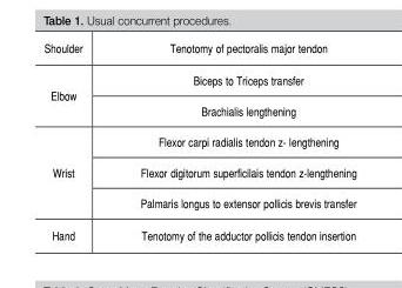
<table><thead><tr><td>Shoulder</td><td>Tenotomy of pectoralis major tendon</td></tr></thead><tbody><tr><td rowspan="2">Elbow</td><td>Biceps to Triceps transfer</td></tr><tr><td>Brachialis lengthening</td></tr><tr><td rowspan="3">Wrist</td><td>Flexor carpi radialis tendon z- lengthening</td></tr><tr><td>Flexor digitorum superficilais tendon z-lengthening</td></tr><tr><td>Palmaris longus to extensor pollicis brevis transfer</td></tr><tr><td>Hand</td><td>Tenotomy of the adductor pollicis tendon insertion</td></tr></tbody></table>